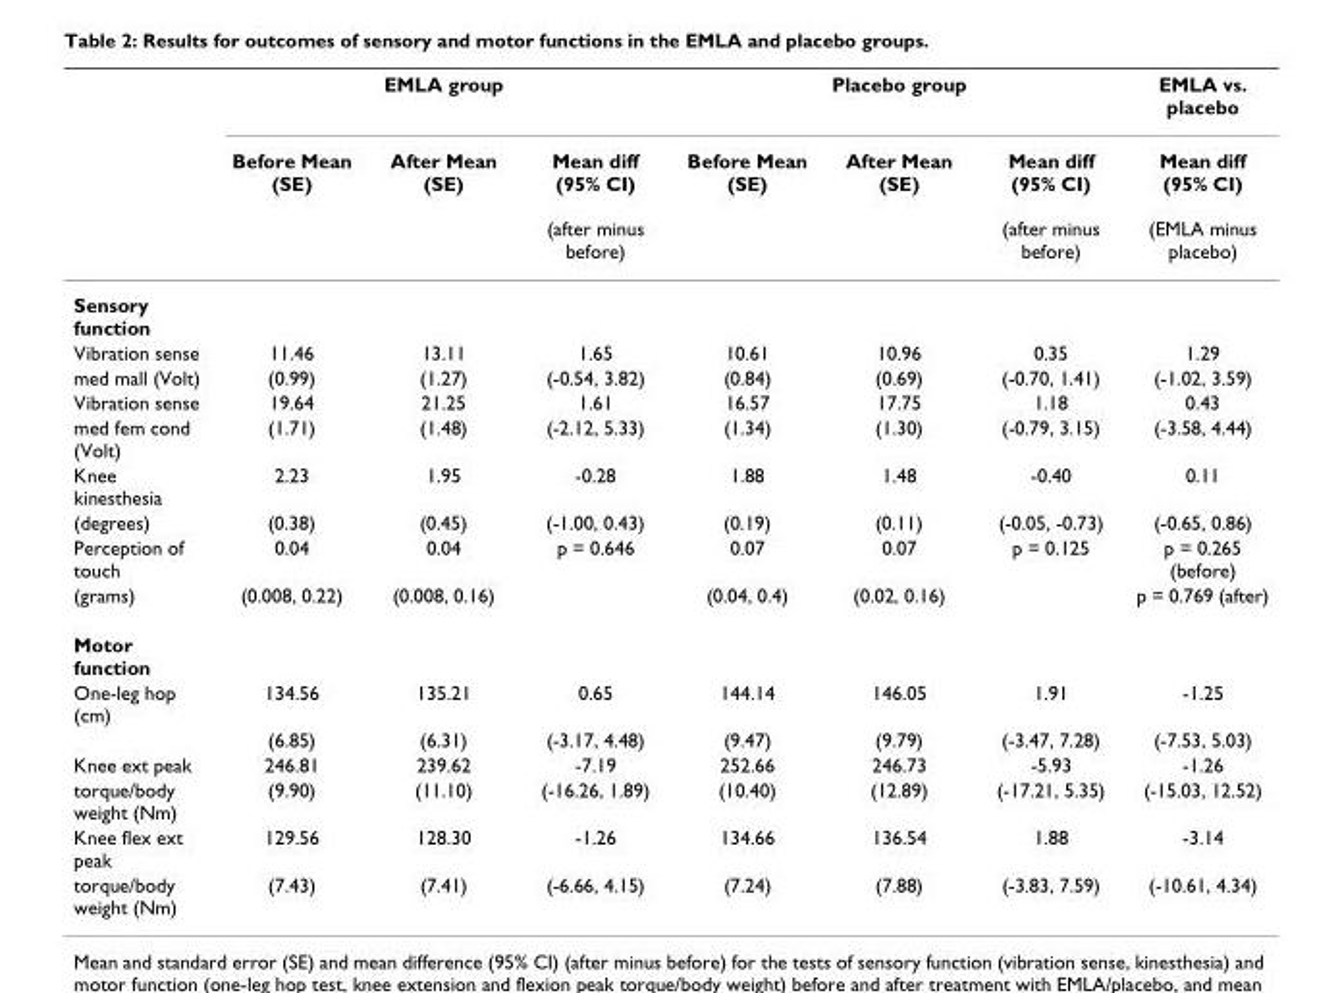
<table><thead><tr><td rowspan="2"></td><td colspan="3">EMLA group</td><td colspan="3">Placebo group</td><td rowspan="2">EMLA vs. placebo Mean diff (95% CI) (EMLA minus placebo)</td></tr><tr><td>Before Mean (SE)</td><td>After Mean (SE)</td><td>Mean diff (95% CI) (after minus before)</td><td>Before Mean (SE)</td><td>After Mean (SE)</td><td>Mean diff (95% CI) (after minus before)</td></tr></thead><tbody><tr><td colspan="8">Sensory function</td></tr><tr><td>Vibration sense</td><td>11.46</td><td>13.11</td><td>1.65</td><td>10.61</td><td>10.96</td><td>0.35</td><td>1.29</td></tr><tr><td>med mall (Volt)</td><td>(0.99)</td><td>(1.27)</td><td>(-0.54, 3.82)</td><td>(0.84)</td><td>(0.69)</td><td>(-0.70, 1.41)</td><td>(-1.02, 3.59)</td></tr><tr><td>Vibration sense</td><td>19.64</td><td>21.25</td><td>1.61</td><td>16.57</td><td>17.75</td><td>1.18</td><td>0.43</td></tr><tr><td>med fem cond (Volt)</td><td>(1.71)</td><td>(1.48)</td><td>(-2.12, 5.33)</td><td>(1.34)</td><td>(1.30)</td><td>(-0.79, 3.15)</td><td>(-3.58, 4.44)</td></tr><tr><td>Knee kinesthesia</td><td>2.23</td><td>1.95</td><td>-0.28</td><td>1.88</td><td>1.48</td><td>-0.40</td><td>0.11</td></tr><tr><td>(degrees)</td><td>(0.38)</td><td>(0.45)</td><td>(-1.00, 0.43)</td><td>(0.19)</td><td>(0.11)</td><td>(-0.05, -0.73)</td><td>(-0.65, 0.86)</td></tr><tr><td>Perception of touch</td><td>0.04</td><td>0.04</td><td>p = 0.646</td><td>0.07</td><td>0.07</td><td>p = 0.125</td><td>p = 0.265 (before)</td></tr><tr><td>(grams)</td><td>(0.008, 0.22)</td><td>(0.008, 0.16)</td><td></td><td>(0.04, 0.4)</td><td>(0.02, 0.16)</td><td></td><td>p = 0.769 (after)</td></tr><tr><td colspan="8">Motor function</td></tr><tr><td rowspan="2">One-leg hop (cm)</td><td>134.56</td><td>135.21</td><td>0.65</td><td>144.14</td><td>146.05</td><td>1.91</td><td>-1.25</td></tr><tr><td>(6.85)</td><td>(6.31)</td><td>(-3.17, 4.48)</td><td>(9.47)</td><td>(9.79)</td><td>(-3.47, 7.28)</td><td>(-7.53, 5.03)</td></tr><tr><td>Knee ext peak</td><td>246.81</td><td>239.62</td><td>-7.19</td><td>252.66</td><td>246.73</td><td>-5.93</td><td>-1.26</td></tr><tr><td>torque/body weight (Nm)</td><td>(9.90)</td><td>(11.10)</td><td>(-16.26, 1.89)</td><td>(10.40)</td><td>(12.89)</td><td>(-17.21, 5.35)</td><td>(-15.03, 12.52)</td></tr><tr><td>Knee flex ext peak</td><td>129.56</td><td>128.30</td><td>-1.26</td><td>134.66</td><td>136.54</td><td>1.88</td><td>-3.14</td></tr><tr><td>torque/body weight (Nm)</td><td>(7.43)</td><td>(7.41)</td><td>(-6.66, 4.15)</td><td>(7.24)</td><td>(7.88)</td><td>(-3.83, 7.59)</td><td>(-10.61, 4.34)</td></tr></tbody></table>